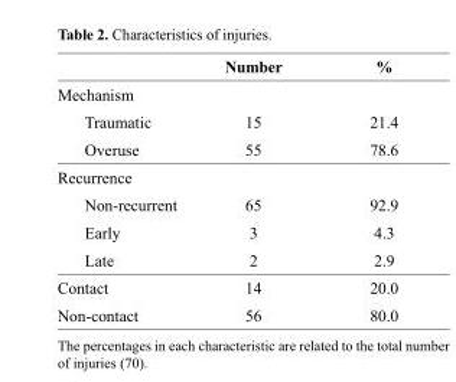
<table><thead><tr><td></td><td>Number</td><td>%</td></tr></thead><tbody><tr><td>Mechanism Traumatic</td><td>15</td><td>21.4</td></tr><tr><td>Overuse</td><td>55</td><td>78.6</td></tr><tr><td>Recurrence Non-recurrent</td><td>65</td><td>92.9</td></tr><tr><td>Early</td><td>3</td><td>4.3</td></tr><tr><td>Late</td><td>2</td><td>2.9</td></tr><tr><td>Contact</td><td>14</td><td>20.0</td></tr><tr><td>Non-contact</td><td>56</td><td>80.0</td></tr></tbody></table>